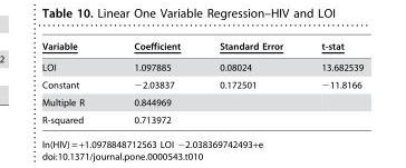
<table><thead><tr><td>Variable</td><td>Coefficient</td><td>Standard Error</td><td>t-stat</td></tr></thead><tbody><tr><td>LOI</td><td>1.097885</td><td>0.08024</td><td>13.682539</td></tr><tr><td>Constant</td><td>−2.03837</td><td>0.172501</td><td>−11.8166</td></tr><tr><td>Multiple R</td><td>0.844969</td><td></td><td></td></tr><tr><td>R-squared</td><td>0.713972</td><td></td><td></td></tr></tbody></table>